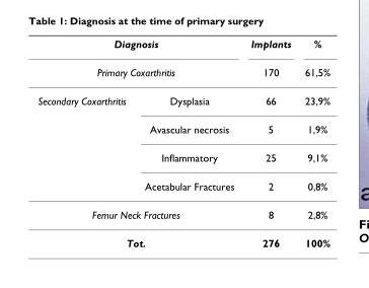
<table><thead><tr><td rowspan="2" colspan="2">Diagnosis Primary Coxarthritis</td><td rowspan="3">Implants 170 66</td><td rowspan="3">% 61,5% 23,9%</td></tr><tr></tr><tr><td>Secondary Coxarthritis</td><td>Dysplasia</td></tr></thead><tbody><tr><td></td><td>Avascular necrosis</td><td>5</td><td>1,9%</td></tr><tr><td></td><td>Inflammatory</td><td>25</td><td>9,1%</td></tr><tr><td></td><td>Acetabular Fractures</td><td>2</td><td>0,8%</td></tr><tr><td colspan="2">Femur Neck Fractures</td><td>8</td><td>2,8%</td></tr><tr><td colspan="2">Tot.</td><td>276</td><td>100%</td></tr></tbody></table>